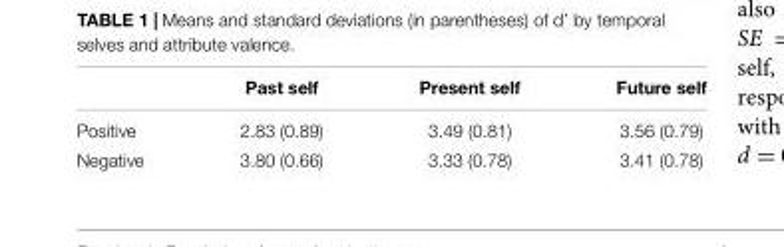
<table><thead><tr><td></td><td>Past self</td><td>Present self</td><td>Future self</td></tr></thead><tbody><tr><td>Positive</td><td>2.83 (0.89)</td><td>3.49 (0.81)</td><td>3.56 (0.79)</td></tr><tr><td>Negative</td><td>3.80 (0.66)</td><td>3.33 (0.78)</td><td>3.41 (0.78)</td></tr></tbody></table>